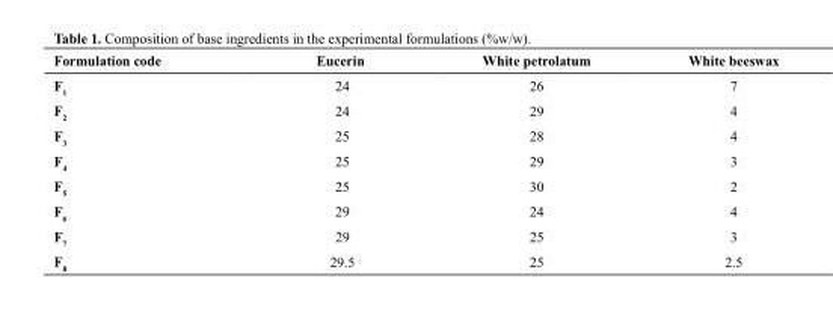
<table><thead><tr><td>Formulation code</td><td>Eucerin</td><td>White petrolatum</td><td>White beeswax</td></tr></thead><tbody><tr><td>F<sub>1</sub></td><td>24</td><td>26</td><td>7</td></tr><tr><td>F<sub>2</sub></td><td>24</td><td>29</td><td>4</td></tr><tr><td>F<sub>3</sub></td><td>25</td><td>28</td><td>4</td></tr><tr><td>F<sub>4</sub></td><td>25</td><td>29</td><td>3</td></tr><tr><td>F<sub>5</sub></td><td>25</td><td>30</td><td>2</td></tr><tr><td>F<sub>6</sub></td><td>29</td><td>24</td><td>4</td></tr><tr><td>F<sub>7</sub></td><td>29</td><td>25</td><td>3</td></tr><tr><td>F<sub>8</sub></td><td>29.5</td><td>25</td><td>2.5</td></tr></tbody></table>